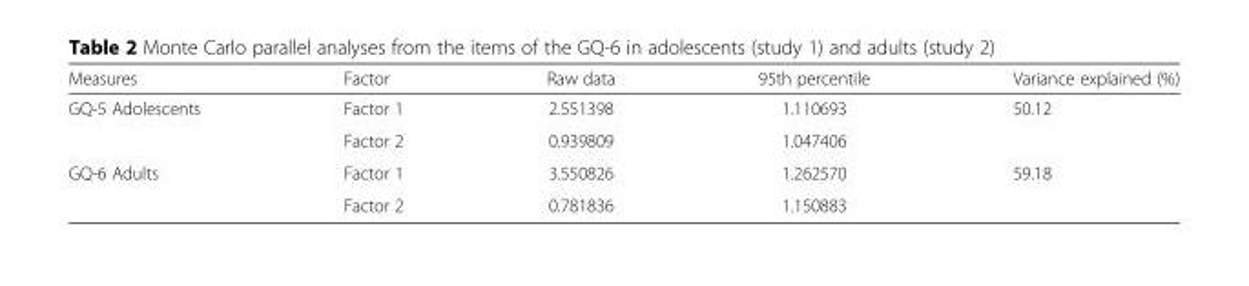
<table><thead><tr><td>Measures</td><td>Factor</td><td>Raw data</td><td>95th percentile</td><td>Variance explained (%)</td></tr></thead><tbody><tr><td rowspan="2">GQ-5 Adolescents</td><td>Factor 1</td><td>2.551398</td><td>1.110693</td><td>50.12</td></tr><tr><td>Factor 2</td><td>0.939809</td><td>1.047406</td><td></td></tr><tr><td rowspan="2">GQ-6 Adults</td><td>Factor 1</td><td>3.550826</td><td>1.262570</td><td>59.18</td></tr><tr><td>Factor 2</td><td>0.781836</td><td>1.150883</td><td></td></tr></tbody></table>